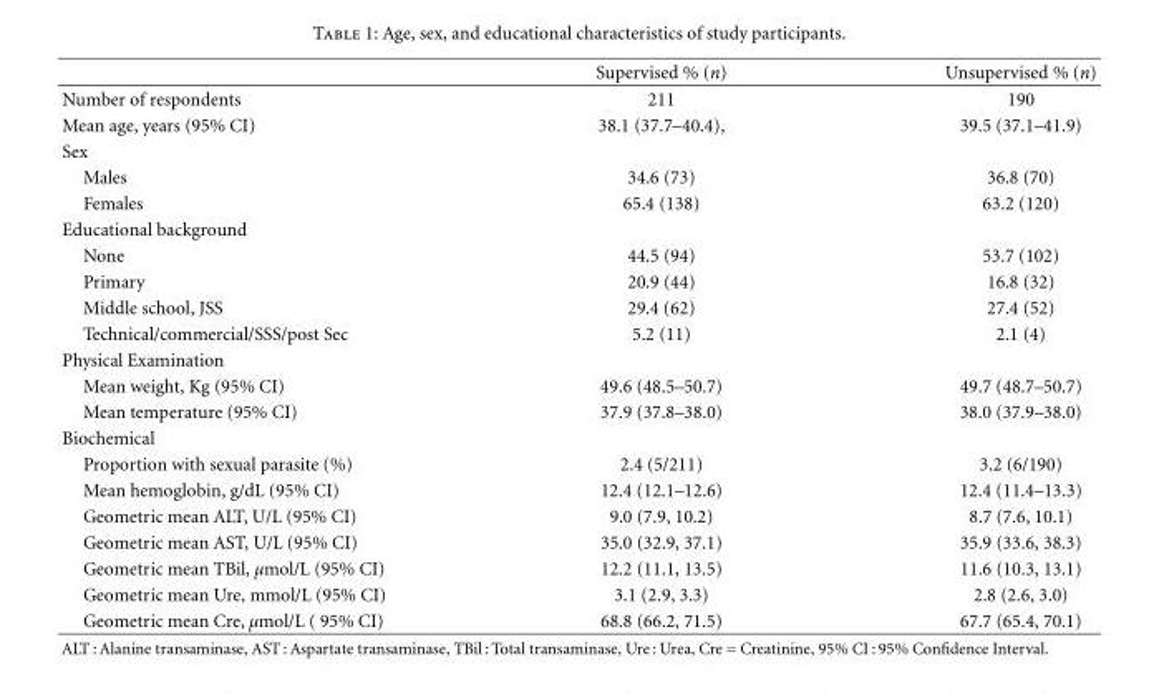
<table><thead><tr><td></td><td>Supervised % (n)</td><td>Unsupervised % (n)</td></tr></thead><tbody><tr><td>Number of respondents</td><td>211</td><td>190</td></tr><tr><td>Mean age, years (95% CI)</td><td>38.1 (37.7–40.4),</td><td>39.5 (37.1–41.9)</td></tr><tr><td colspan="3">Sex</td></tr><tr><td>Males</td><td>34.6 (73)</td><td>36.8 (70)</td></tr><tr><td>Females</td><td>65.4 (138)</td><td>63.2 (120)</td></tr><tr><td colspan="3">Educational background</td></tr><tr><td>None</td><td>44.5 (94)</td><td>53.7 (102)</td></tr><tr><td>Primary</td><td>20.9 (44)</td><td>16.8 (32)</td></tr><tr><td>Middle school, JSS</td><td>29.4 (62)</td><td>27.4 (52)</td></tr><tr><td>Technical/commercial/SSS/post Sec</td><td>5.2 (11)</td><td>2.1 (4)</td></tr><tr><td colspan="3">Physical Examination</td></tr><tr><td>Mean weight, Kg (95% CI)</td><td>49.6 (48.5–50.7)</td><td>49.7 (48.7–50.7)</td></tr><tr><td>Mean temperature (95% CI)</td><td>37.9 (37.8–38.0)</td><td>38.0 (37.9–38.0)</td></tr><tr><td colspan="3">Biochemical</td></tr><tr><td>Proportion with sexual parasite (%)</td><td>2.4 (5/211)</td><td>3.2 (6/190)</td></tr><tr><td>Mean hemoglobin, g/dL (95% CI)</td><td>12.4 (12.1–12.6)</td><td>12.4 (11.4–13.3)</td></tr><tr><td>Geometric mean ALT, U/L (95% CI)</td><td>9.0 (7.9, 10.2)</td><td>8.7 (7.6, 10.1)</td></tr><tr><td>Geometric mean AST, U/L (95% CI)</td><td>35.0 (32.9, 37.1)</td><td>35.9 (33.6, 38.3)</td></tr><tr><td>Geometric mean TBil, µmol/L (95% CI)</td><td>12.2 (11.1, 13.5)</td><td>11.6 (10.3, 13.1)</td></tr><tr><td>Geometric mean Ure, mmol/L (95% CI)</td><td>3.1 (2.9, 3.3)</td><td>2.8 (2.6, 3.0)</td></tr><tr><td>Geometric mean Cre, µmol/L ( 95% CI)</td><td>68.8 (66.2, 71.5)</td><td>67.7 (65.4, 70.1)</td></tr></tbody></table>